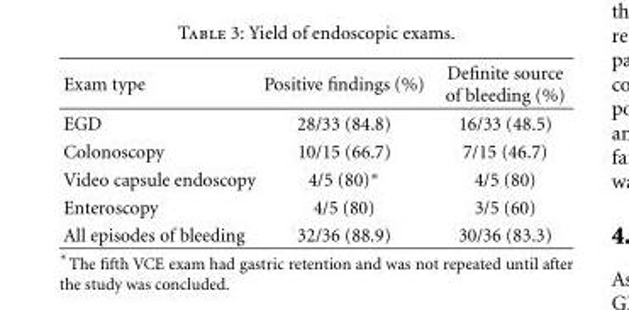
<table><thead><tr><td>Exam type</td><td>Positive findings (%)</td><td>Definite source of bleeding (%)</td></tr></thead><tbody><tr><td>EGD</td><td>28/33 (84.8)</td><td>16/33 (48.5)</td></tr><tr><td>Colonoscopy</td><td>10/15 (66.7)</td><td>7/15 (46.7)</td></tr><tr><td>Video capsule endoscopy</td><td>4/5 (80)∗</td><td>4/5 (80)</td></tr><tr><td>Enteroscopy</td><td>4/5 (80)</td><td>3/5 (60)</td></tr><tr><td>All episodes of bleeding</td><td>32/36 (88.9)</td><td>30/36 (83.3)</td></tr></tbody></table>